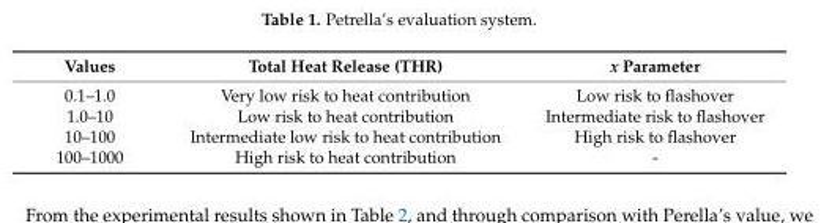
<table><thead><tr><td>Values</td><td>Total Heat Release (THR)</td><td>x Parameter</td></tr></thead><tbody><tr><td>0.1–1.0</td><td>Very low risk to heat contribution</td><td>Low risk to flashover</td></tr><tr><td>1.0–10</td><td>Low risk to heat contribution</td><td>Intermediate risk to flashover</td></tr><tr><td>10–100</td><td>Intermediate low risk to heat contribution</td><td>High risk to flashover</td></tr><tr><td>100–1000</td><td>High risk to heat contribution</td><td>-</td></tr></tbody></table>